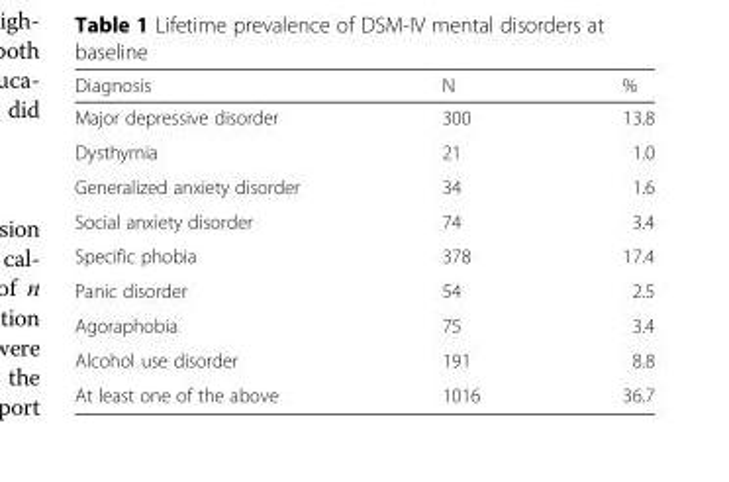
<table><thead><tr><td>Diagnosis</td><td>N</td><td>%</td></tr></thead><tbody><tr><td>Major depressive disorder</td><td>300</td><td>13.8</td></tr><tr><td>Dysthymia</td><td>21</td><td>1.0</td></tr><tr><td>Generalized anxiety disorder</td><td>34</td><td>1.6</td></tr><tr><td>Social anxiety disorder</td><td>74</td><td>3.4</td></tr><tr><td>Specific phobia</td><td>378</td><td>17.4</td></tr><tr><td>Panic disorder</td><td>54</td><td>2.5</td></tr><tr><td>Agoraphobia</td><td>75</td><td>3.4</td></tr><tr><td>Alcohol use disorder</td><td>191</td><td>8.8</td></tr><tr><td>At least one of the above</td><td>1016</td><td>36.7</td></tr></tbody></table>